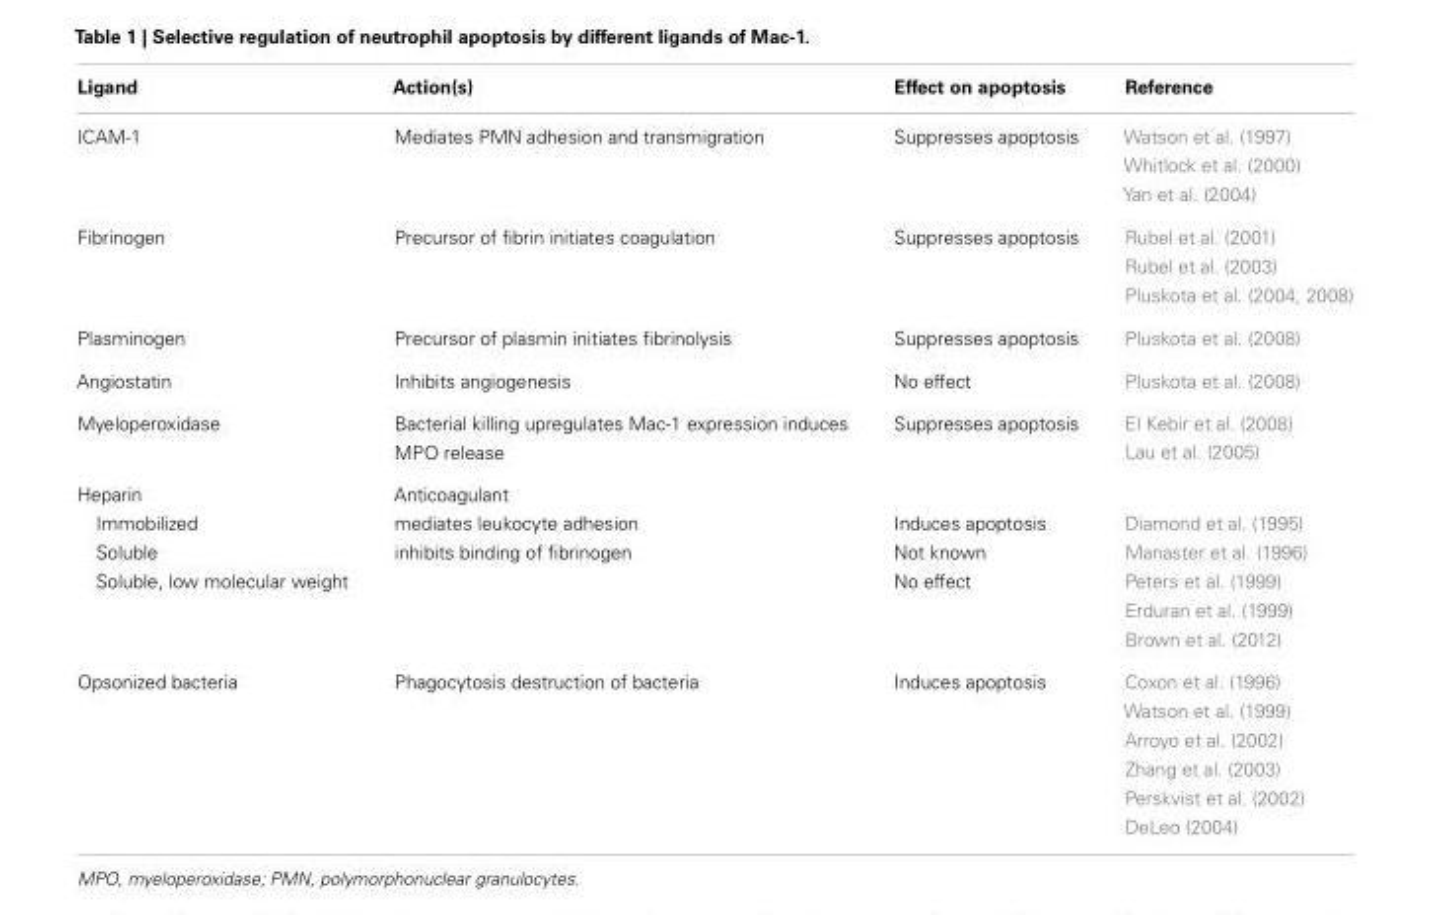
<table><thead><tr><td>Ligand</td><td>Action(s)</td><td>Effect on apoptosis</td><td>Reference</td></tr></thead><tbody><tr><td>ICAM-1</td><td>Mediates PMN adhesion and transmigration</td><td>Suppresses apoptosis</td><td>Watson et al. (1997) Whitlock et al. (2000) Yan et al. (2004)</td></tr><tr><td>Fibrinogen</td><td>Precursor of fibrin initiates coagulation</td><td>Suppresses apoptosis</td><td>Rubel et al. (2001) Rubel et al. (2003) Pluskota et al. (2004, 2008)</td></tr><tr><td>Plasminogen</td><td>Precursor of plasmin initiates fibrinolysis</td><td>Suppresses apoptosis</td><td>Pluskota et al. (2008)</td></tr><tr><td>Angiostatin</td><td>Inhibits angiogenesis</td><td>No effect</td><td>Pluskota et al. (2008)</td></tr><tr><td>Myeloperoxidase</td><td>Bacterial killing upregulates Mac-1 expression induces MPO release</td><td>Suppresses apoptosis</td><td>El Kebir et al. (2008) Lau et al. (2005)</td></tr><tr><td>Heparin</td><td>Anticoagulant</td><td></td><td></td></tr><tr><td>Immobilized</td><td>mediates leukocyte adhesion</td><td>Induces apoptosis</td><td>Diamond et al. (1995)</td></tr><tr><td>Soluble</td><td>inhibits binding of fibrinogen</td><td>Not known</td><td>Manaster et al. (1996)</td></tr><tr><td>Soluble, low molecular weight</td><td></td><td>No effect</td><td>Peters et al. (1999) Erduran et al. (1999) Brown et al. (2012)</td></tr><tr><td>Opsonized bacteria</td><td>Phagocytosis destruction of bacteria</td><td>Induces apoptosis</td><td>Coxon et al. (1996) Watson et al. (1999) Arroyo et al. (2002) Zhang et al. (2003) Perskvist et al. (2002) DeLeo (2004)</td></tr></tbody></table>